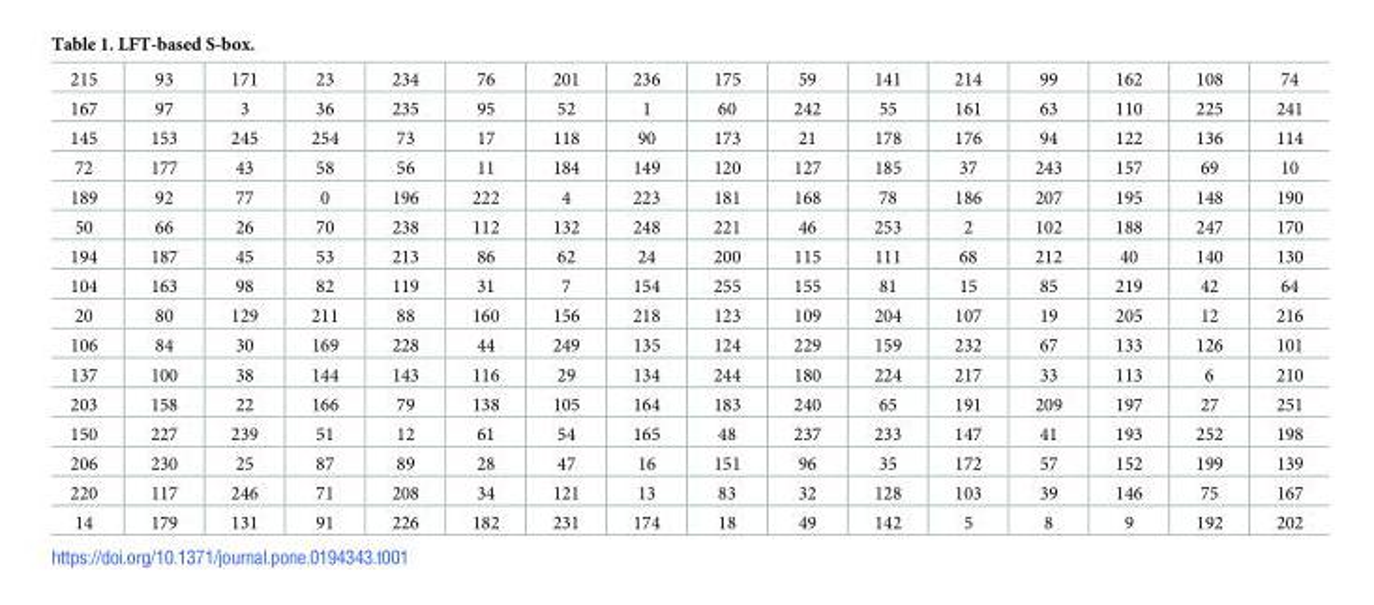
<table><tbody><tr><td>215</td><td>93</td><td>171</td><td>23</td><td>234</td><td>76</td><td>201</td><td>236</td><td>175</td><td>59</td><td>141</td><td>214</td><td>99</td><td>162</td><td>108</td><td>74</td></tr><tr><td>167</td><td>97</td><td>3</td><td>36</td><td>235</td><td>95</td><td>52</td><td>1</td><td>60</td><td>242</td><td>55</td><td>161</td><td>63</td><td>110</td><td>225</td><td>241</td></tr><tr><td>145</td><td>153</td><td>245</td><td>254</td><td>73</td><td>17</td><td>118</td><td>90</td><td>173</td><td>21</td><td>178</td><td>176</td><td>94</td><td>122</td><td>136</td><td>114</td></tr><tr><td>72</td><td>177</td><td>43</td><td>58</td><td>56</td><td>11</td><td>184</td><td>149</td><td>120</td><td>127</td><td>185</td><td>37</td><td>243</td><td>157</td><td>69</td><td>10</td></tr><tr><td>189</td><td>92</td><td>77</td><td>0</td><td>196</td><td>222</td><td>4</td><td>223</td><td>181</td><td>168</td><td>78</td><td>186</td><td>207</td><td>195</td><td>148</td><td>190</td></tr><tr><td>50</td><td>66</td><td>26</td><td>70</td><td>238</td><td>112</td><td>132</td><td>248</td><td>221</td><td>46</td><td>253</td><td>2</td><td>102</td><td>188</td><td>247</td><td>170</td></tr><tr><td>194</td><td>187</td><td>45</td><td>53</td><td>213</td><td>86</td><td>62</td><td>24</td><td>200</td><td>115</td><td>111</td><td>68</td><td>212</td><td>40</td><td>140</td><td>130</td></tr><tr><td>104</td><td>163</td><td>98</td><td>82</td><td>119</td><td>31</td><td>7</td><td>154</td><td>255</td><td>155</td><td>81</td><td>15</td><td>85</td><td>219</td><td>42</td><td>64</td></tr><tr><td>20</td><td>80</td><td>129</td><td>211</td><td>88</td><td>160</td><td>156</td><td>218</td><td>123</td><td>109</td><td>204</td><td>107</td><td>19</td><td>205</td><td>12</td><td>216</td></tr><tr><td>106</td><td>84</td><td>30</td><td>169</td><td>228</td><td>44</td><td>249</td><td>135</td><td>124</td><td>229</td><td>159</td><td>232</td><td>67</td><td>133</td><td>126</td><td>101</td></tr><tr><td>137</td><td>100</td><td>38</td><td>144</td><td>143</td><td>116</td><td>29</td><td>134</td><td>244</td><td>180</td><td>224</td><td>217</td><td>33</td><td>113</td><td>6</td><td>210</td></tr><tr><td>203</td><td>158</td><td>22</td><td>166</td><td>79</td><td>138</td><td>105</td><td>164</td><td>183</td><td>240</td><td>65</td><td>191</td><td>209</td><td>197</td><td>27</td><td>251</td></tr><tr><td>150</td><td>227</td><td>239</td><td>51</td><td>12</td><td>61</td><td>54</td><td>165</td><td>48</td><td>237</td><td>233</td><td>147</td><td>41</td><td>193</td><td>252</td><td>198</td></tr><tr><td>206</td><td>230</td><td>25</td><td>87</td><td>89</td><td>28</td><td>47</td><td>16</td><td>151</td><td>96</td><td>35</td><td>172</td><td>57</td><td>152</td><td>199</td><td>139</td></tr><tr><td>220</td><td>117</td><td>246</td><td>71</td><td>208</td><td>34</td><td>121</td><td>13</td><td>83</td><td>32</td><td>128</td><td>103</td><td>39</td><td>146</td><td>75</td><td>167</td></tr><tr><td>14</td><td>179</td><td>131</td><td>91</td><td>226</td><td>182</td><td>231</td><td>174</td><td>18</td><td>49</td><td>142</td><td>5</td><td>8</td><td>9</td><td>192</td><td>202</td></tr></tbody></table>